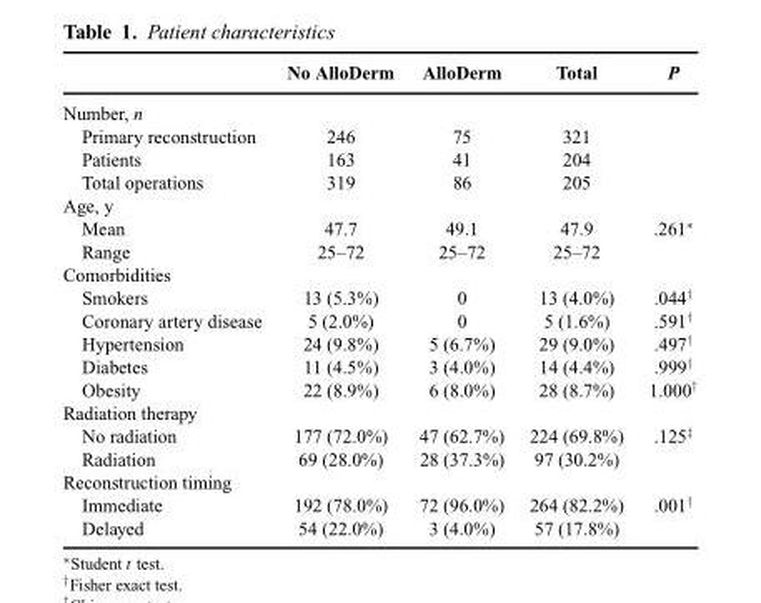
<table><thead><tr><td></td><td>No AlloDerm</td><td>AlloDerm</td><td>Total</td><td>P</td></tr></thead><tbody><tr><td colspan="5">Number, n</td></tr><tr><td>Primary reconstruction</td><td>246</td><td>75</td><td>321</td><td></td></tr><tr><td>Patients</td><td>163</td><td>41</td><td>204</td><td></td></tr><tr><td>Total operations</td><td>319</td><td>86</td><td>205</td><td></td></tr><tr><td colspan="5">Age, y</td></tr><tr><td>Mean</td><td>47.7</td><td>49.1</td><td>47.9</td><td>.261∗</td></tr><tr><td>Range</td><td>25–72</td><td>25–72</td><td>25–72</td><td></td></tr><tr><td colspan="5">Comorbidities</td></tr><tr><td>Smokers</td><td>13 (5.3%)</td><td>0</td><td>13 (4.0%)</td><td>.044†</td></tr><tr><td>Coronary artery disease</td><td>5 (2.0%)</td><td>0</td><td>5 (1.6%)</td><td>.591†</td></tr><tr><td>Hypertension</td><td>24 (9.8%)</td><td>5 (6.7%)</td><td>29 (9.0%)</td><td>.497†</td></tr><tr><td>Diabetes</td><td>11 (4.5%)</td><td>3 (4.0%)</td><td>14 (4.4%)</td><td>.999†</td></tr><tr><td>Obesity</td><td>22 (8.9%)</td><td>6 (8.0%)</td><td>28 (8.7%)</td><td>1.000†</td></tr><tr><td colspan="5">Radiation therapy</td></tr><tr><td>No radiation</td><td>177 (72.0%)</td><td>47 (62.7%)</td><td>224 (69.8%)</td><td>.125‡</td></tr><tr><td>Radiation</td><td>69 (28.0%)</td><td>28 (37.3%)</td><td>97 (30.2%)</td><td></td></tr><tr><td colspan="5">Reconstruction timing</td></tr><tr><td>Immediate</td><td>192 (78.0%)</td><td>72 (96.0%)</td><td>264 (82.2%)</td><td>.001†</td></tr><tr><td>Delayed</td><td>54 (22.0%)</td><td>3 (4.0%)</td><td>57 (17.8%)</td><td></td></tr></tbody></table>